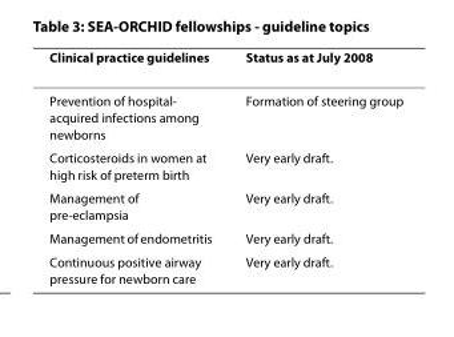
<table><thead><tr><td>Clinical practice guidelines</td><td>Status as at July 2008</td></tr></thead><tbody><tr><td>Prevention of hospital- acquired infections among newborns</td><td>Formation of steering group</td></tr><tr><td>Corticosteroids in women at high risk of preterm birth</td><td>Very early draft.</td></tr><tr><td>Management of pre-eclampsia</td><td>Very early draft.</td></tr><tr><td>Management of endometritis</td><td>Very early draft.</td></tr><tr><td>Continuous positive airway pressure for newborn care</td><td>Very early draft.</td></tr></tbody></table>